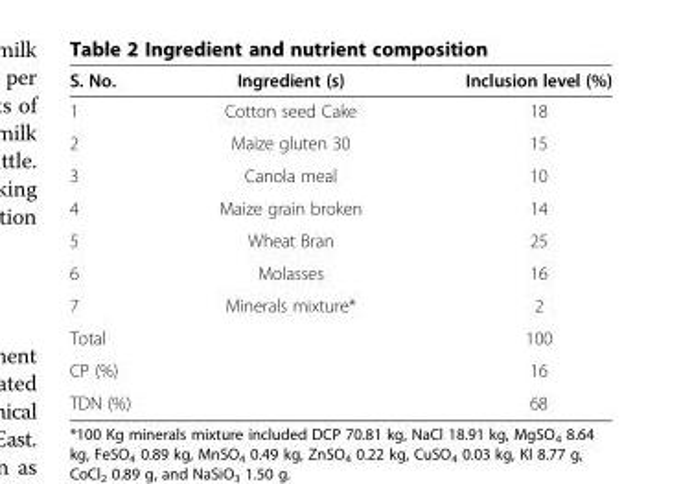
<table><thead><tr><td>S. No.</td><td>Ingredient (s)</td><td>Inclusion level (%)</td></tr></thead><tbody><tr><td>1</td><td>Cotton seed Cake</td><td>18</td></tr><tr><td>2</td><td>Maize gluten 30</td><td>15</td></tr><tr><td>3</td><td>Canola meal</td><td>10</td></tr><tr><td>4</td><td>Maize grain broken</td><td>14</td></tr><tr><td>5</td><td>Wheat Bran</td><td>25</td></tr><tr><td>6</td><td>Molasses</td><td>16</td></tr><tr><td>7</td><td>Minerals mixture*</td><td>2</td></tr><tr><td colspan="2">Total</td><td>100</td></tr><tr><td colspan="2">CP (%)</td><td>16</td></tr><tr><td colspan="2">TDN (%)</td><td>68</td></tr></tbody></table>